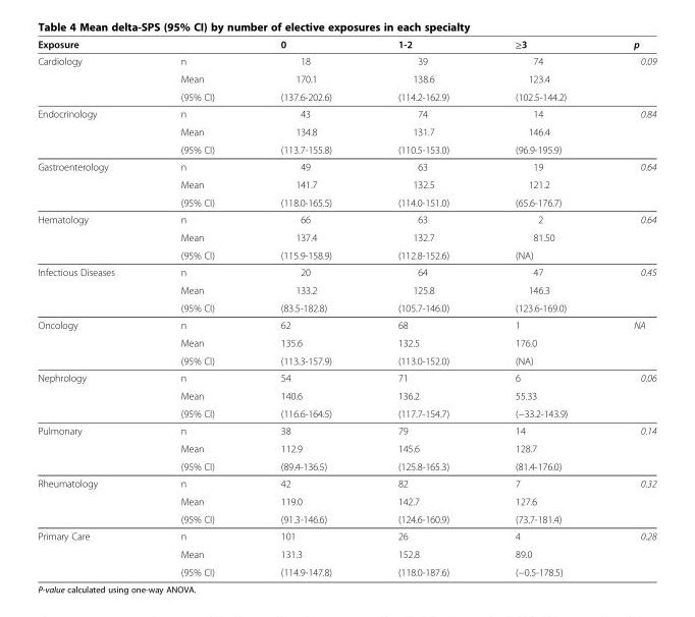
<table><thead><tr><td>Exposure</td><td></td><td>0</td><td>1-2</td><td>≥3</td><td>p</td></tr></thead><tbody><tr><td rowspan="3">Cardiology</td><td>n</td><td>18</td><td>39</td><td>74</td><td>0.09</td></tr><tr><td>Mean</td><td>170.1</td><td>138.6</td><td>123.4</td><td></td></tr><tr><td>(95% CI)</td><td>(137.6-202.6)</td><td>(114.2-162.9)</td><td>(102.5-144.2)</td><td></td></tr><tr><td rowspan="3">Endocrinology</td><td>n</td><td>43</td><td>74</td><td>14</td><td>0.84</td></tr><tr><td>Mean</td><td>134.8</td><td>131.7</td><td>146.4</td><td></td></tr><tr><td>(95% CI)</td><td>(113.7-155.8)</td><td>(110.5-153.0)</td><td>(96.9-195.9)</td><td></td></tr><tr><td rowspan="3">Gastroenterology</td><td>n</td><td>49</td><td>63</td><td>19</td><td>0.64</td></tr><tr><td>Mean</td><td>141.7</td><td>132.5</td><td>121.2</td><td></td></tr><tr><td>(95% CI)</td><td>(118.0-165.5)</td><td>(114.0-151.0)</td><td>(65.6-176.7)</td><td></td></tr><tr><td rowspan="3">Hematology</td><td>n</td><td>66</td><td>63</td><td>2</td><td>0.64</td></tr><tr><td>Mean</td><td>137.4</td><td>132.7</td><td>81.50</td><td></td></tr><tr><td>(95% CI)</td><td>(115.9-158.9)</td><td>(112.8-152.6)</td><td>(NA)</td><td></td></tr><tr><td rowspan="3">Infectious Diseases</td><td>n</td><td>20</td><td>64</td><td>47</td><td>0.45</td></tr><tr><td>Mean</td><td>133.2</td><td>125.8</td><td>146.3</td><td></td></tr><tr><td>(95% CI)</td><td>(83.5-182.8)</td><td>(105.7-146.0)</td><td>(123.6-169.0)</td><td></td></tr><tr><td rowspan="3">Oncology</td><td>n</td><td>62</td><td>68</td><td>1</td><td>NA</td></tr><tr><td>Mean</td><td>135.6</td><td>132.5</td><td>176.0</td><td></td></tr><tr><td>(95% CI)</td><td>(113.3-157.9)</td><td>(113.0-152.0)</td><td>(NA)</td><td></td></tr><tr><td rowspan="3">Nephrology</td><td>n</td><td>54</td><td>71</td><td>6</td><td>0.06</td></tr><tr><td>Mean</td><td>140.6</td><td>136.2</td><td>55.33</td><td></td></tr><tr><td>(95% CI)</td><td>(116.6-164.5)</td><td>(117.7-154.7)</td><td>(−33.2-143.9)</td><td></td></tr><tr><td rowspan="3">Pulmonary</td><td>n</td><td>38</td><td>79</td><td>14</td><td>0.14</td></tr><tr><td>Mean</td><td>112.9</td><td>145.6</td><td>128.7</td><td></td></tr><tr><td>(95% CI)</td><td>(89.4-136.5)</td><td>(125.8-165.3)</td><td>(81.4-176.0)</td><td></td></tr><tr><td rowspan="3">Rheumatology</td><td>n</td><td>42</td><td>82</td><td>7</td><td>0.32</td></tr><tr><td>Mean</td><td>119.0</td><td>142.7</td><td>127.6</td><td></td></tr><tr><td>(95% CI)</td><td>(91.3-146.6)</td><td>(124.6-160.9)</td><td>(73.7-181.4)</td><td></td></tr><tr><td rowspan="3">Primary Care</td><td>n</td><td>101</td><td>26</td><td>4</td><td>0.28</td></tr><tr><td>Mean</td><td>131.3</td><td>152.8</td><td>89.0</td><td></td></tr><tr><td>(95% CI)</td><td>(114.9-147.8)</td><td>(118.0-187.6)</td><td>(−0.5-178.5)</td><td></td></tr></tbody></table>